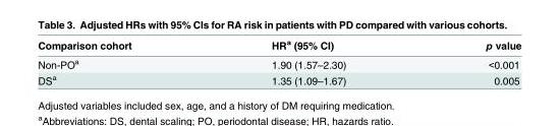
<table><thead><tr><td>Comparison cohort</td><td>HR<sup>a</sup> (95% CI)</td><td>p value</td></tr></thead><tbody><tr><td>Non-PO<sup>a</sup></td><td>1.90 (1.57–2.30)</td><td>&lt;0.001</td></tr><tr><td>DS<sup>a</sup></td><td>1.35 (1.09–1.67)</td><td>0.005</td></tr></tbody></table>